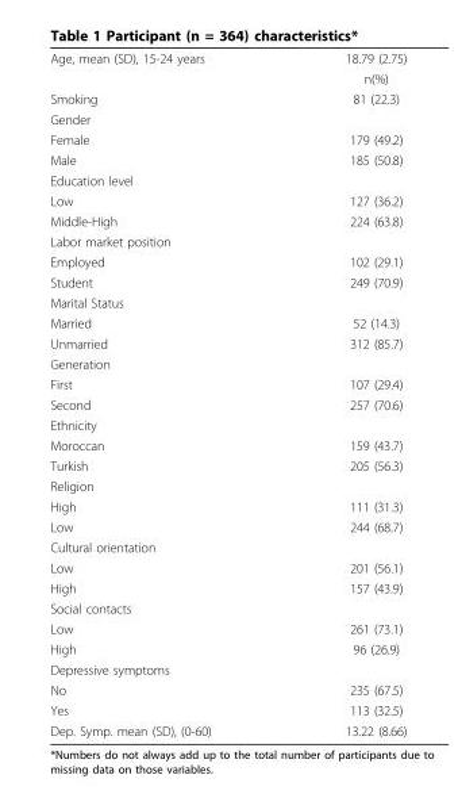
<table><tbody><tr><td rowspan="2">Age, mean (SD), 15-24 years</td><td>18.79 (2.75)</td></tr><tr><td>n(%)</td></tr><tr><td>Smoking</td><td>81 (22.3)</td></tr><tr><td colspan="2">Gender</td></tr><tr><td>Female</td><td>179 (49.2)</td></tr><tr><td>Male</td><td>185 (50.8)</td></tr><tr><td colspan="2">Education level</td></tr><tr><td>Low</td><td>127 (36.2)</td></tr><tr><td>Middle-High</td><td>224 (63.8)</td></tr><tr><td colspan="2">Labor market position</td></tr><tr><td>Employed</td><td>102 (29.1)</td></tr><tr><td>Student</td><td>249 (70.9)</td></tr><tr><td colspan="2">Marital Status</td></tr><tr><td>Married</td><td>52 (14.3)</td></tr><tr><td>Unmarried</td><td>312 (85.7)</td></tr><tr><td colspan="2">Generation</td></tr><tr><td>First</td><td>107 (29.4)</td></tr><tr><td>Second</td><td>257 (70.6)</td></tr><tr><td colspan="2">Ethnicity</td></tr><tr><td>Moroccan</td><td>159 (43.7)</td></tr><tr><td>Turkish</td><td>205 (56.3)</td></tr><tr><td colspan="2">Religion</td></tr><tr><td>High</td><td>111 (31.3)</td></tr><tr><td>Low</td><td>244 (68.7)</td></tr><tr><td colspan="2">Cultural orientation</td></tr><tr><td>Low</td><td>201 (56.1)</td></tr><tr><td>High</td><td>157 (43.9)</td></tr><tr><td colspan="2">Social contacts</td></tr><tr><td>Low</td><td>261 (73.1)</td></tr><tr><td>High</td><td>96 (26.9)</td></tr><tr><td colspan="2">Depressive symptoms</td></tr><tr><td>No</td><td>235 (67.5)</td></tr><tr><td>Yes</td><td>113 (32.5)</td></tr><tr><td>Dep. Symp. mean (SD), (0-60)</td><td>13.22 (8.66)</td></tr></tbody></table>